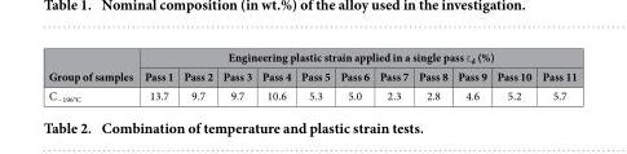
<table><thead><tr><td rowspan="2">Group of samples</td><td colspan="11">Engineering plastic strain applied in a single pass ε <sub>d</sub> (%)</td></tr><tr><td>Pass 1</td><td>Pass 2</td><td>Pass 3</td><td>Pass 4</td><td>Pass 5</td><td>Pass 6</td><td>Pass 7</td><td>Pass 8</td><td>Pass 9</td><td>Pass 10</td><td>Pass 11</td></tr></thead><tbody><tr><td>C<sub>−196°C</sub></td><td>13.7</td><td>9.7</td><td>9.7</td><td>10.6</td><td>5.3</td><td>5.0</td><td>2.3</td><td>2.8</td><td>4.6</td><td>5.2</td><td>5.7</td></tr></tbody></table>